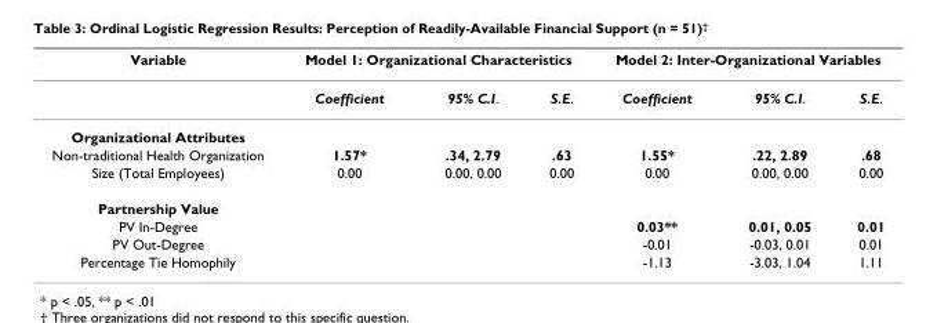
<table><thead><tr><td rowspan="2">Variable</td><td colspan="3">Model 1: Organizational Characteristics</td><td colspan="3">Model 2: Inter-Organizational Variables</td></tr><tr><td>Coefficient</td><td>95% C.I.</td><td>S.E.</td><td>Coefficient</td><td>95% C.I.</td><td>S.E.</td></tr></thead><tbody><tr><td colspan="7">Organizational Attributes</td></tr><tr><td>Non-traditional Health Organization</td><td>1.57*</td><td>.34, 2.79</td><td>.63</td><td>1.55*</td><td>.22, 2.89</td><td>.68</td></tr><tr><td>Size (Total Employees)</td><td>0.00</td><td>0.00, 0.00</td><td>0.00</td><td>0.00</td><td>0.00, 0.00</td><td>0.00</td></tr><tr><td colspan="7">Partnership Value</td></tr><tr><td>PV In-Degree</td><td></td><td></td><td></td><td>0.03**</td><td>0.01, 0.05</td><td>0.01</td></tr><tr><td>PV Out-Degree</td><td></td><td></td><td></td><td>-0.01</td><td>-0.03, 0.01</td><td>0.01</td></tr><tr><td>Percentage Tie Homophily</td><td></td><td></td><td></td><td>-1.13</td><td>-3.03, 1.04</td><td>1.11</td></tr></tbody></table>